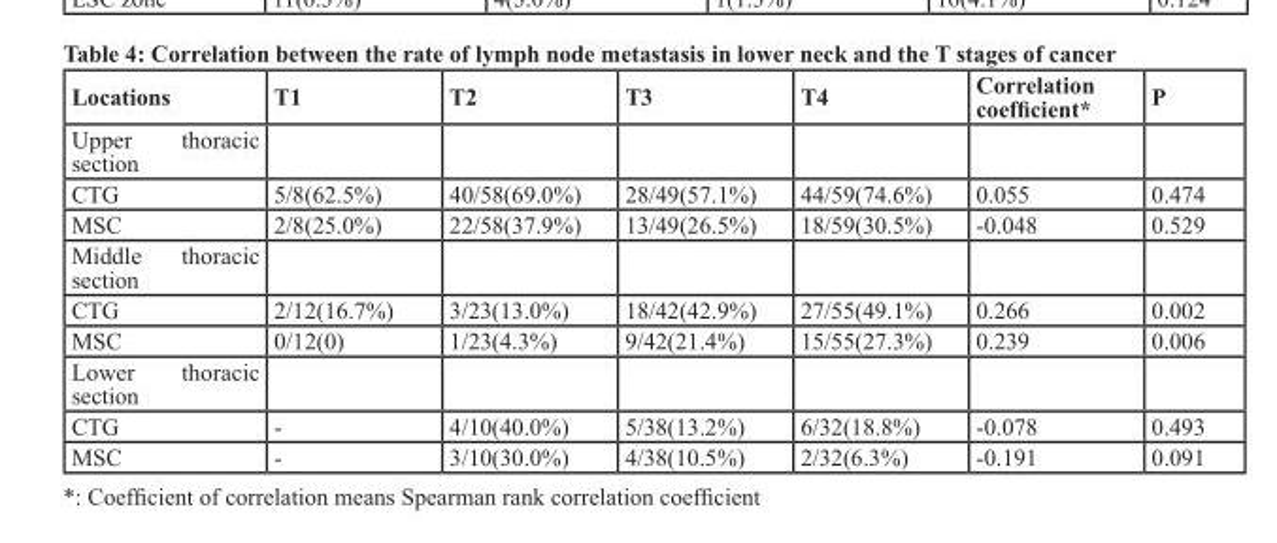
<table><thead><tr><td>locations</td><td>t1</td><td>t2</td><td>t3</td><td>t4</td><td>correlation coefficient*</td><td>P</td></tr></thead><tbody><tr><td colspan="7">Upper thoracic section</td></tr><tr><td>CTG</td><td>5/8(62.5%)</td><td>40/58(69.0%)</td><td>28/49(57.1%)</td><td>44/59(74.6%)</td><td>0.055</td><td>0.474</td></tr><tr><td>MSC</td><td>2/8(25.0%)</td><td>22/58(37.9%)</td><td>13/49(26.5%)</td><td>18/59(30.5%)</td><td>-0.048</td><td>0.529</td></tr><tr><td colspan="7">Middle thoracic section</td></tr><tr><td>CTG</td><td>2/12(16.7%)</td><td>3/23(13.0%)</td><td>18/42(42.9%)</td><td>27/55(49.1%)</td><td>0.266</td><td>0.002</td></tr><tr><td>MSC</td><td>0/12(0)</td><td>1/23(4.3%)</td><td>9/42(21.4%)</td><td>15/55(27.3%)</td><td>0.239</td><td>0.006</td></tr><tr><td colspan="7">Lower thoracic section</td></tr><tr><td>CTG</td><td>-</td><td>4/10(40.0%)</td><td>5/38(13.2%)</td><td>6/32(18.8%)</td><td>-0.078</td><td>0.493</td></tr><tr><td>MSC</td><td>-</td><td>3/10(30.0%)</td><td>4/38(10.5%)</td><td>2/32(6.3%)</td><td>-0.191</td><td>0.091</td></tr></tbody></table>